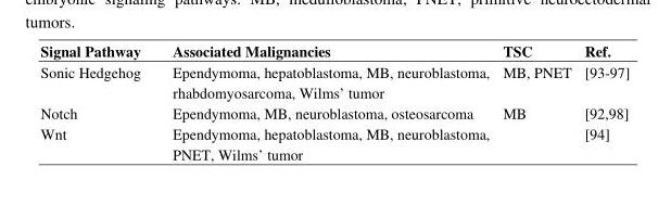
<table><thead><tr><td>Signal Pathway</td><td>Associated Malignancies</td><td>TSC</td><td>Ref.</td></tr></thead><tbody><tr><td>Sonic Hedgehog</td><td>Ependymoma, hepatoblastoma, MB, neuroblastoma, rhabdomyosarcoma, Wilms’ tumor</td><td>MB, PNET</td><td>[93-97]</td></tr><tr><td>Notch</td><td>Ependymoma, MB, neuroblastoma, osteosarcoma</td><td>MB</td><td>[92,98]</td></tr><tr><td>Wnt</td><td>Ependymoma, hepatoblastoma, MB, neuroblastoma, PNET, Wilms’ tumor</td><td></td><td>[94]</td></tr></tbody></table>